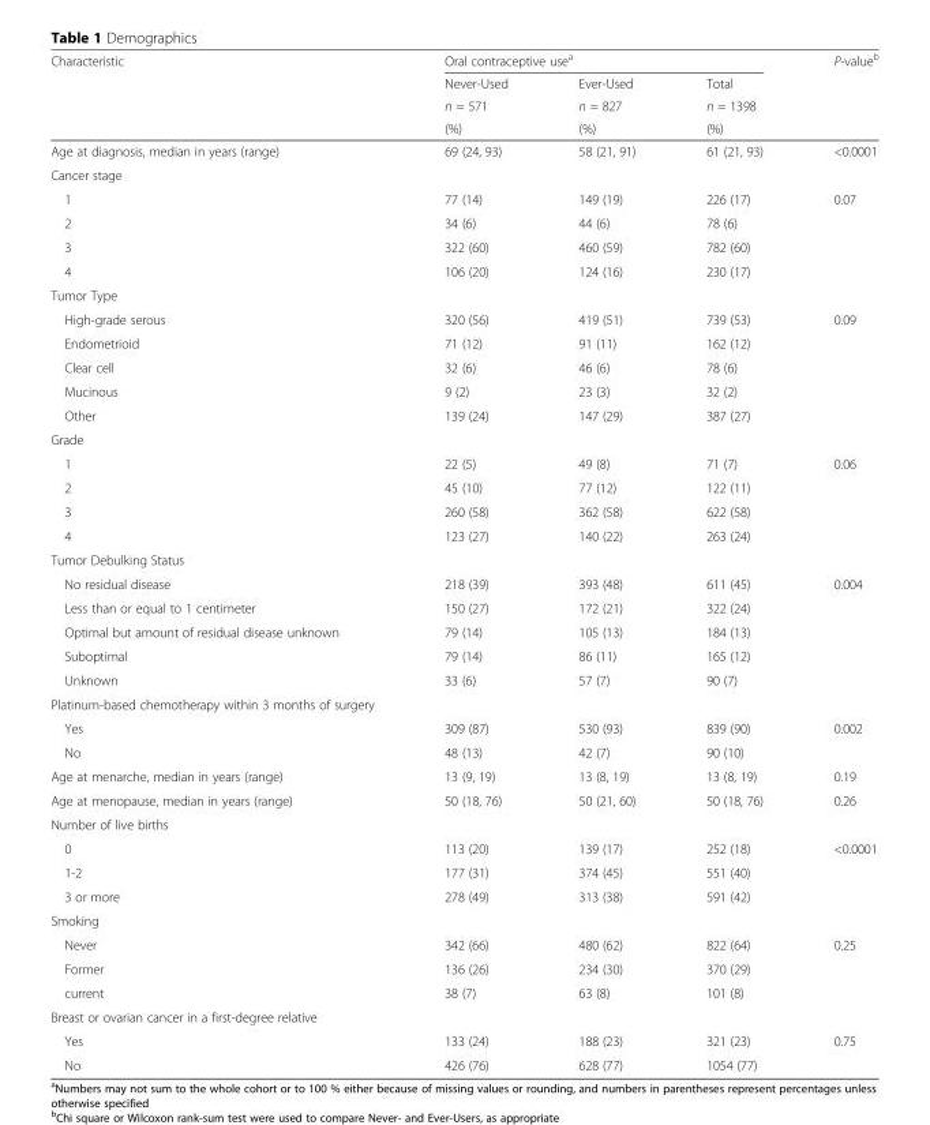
<table><thead><tr><td rowspan="4">Characteristic</td><td colspan="3">Oral contraceptive use<sup>a</sup></td><td rowspan="4">P-value<sup>b</sup></td></tr><tr><td rowspan="3">Never-Used n = 571 (%)</td><td rowspan="3">Ever-Used n = 827 (%)</td><td rowspan="3">Total n = 1398 (%)</td></tr><tr></tr><tr></tr></thead><tbody><tr><td>Age at diagnosis, median in years (range)</td><td>69 (24, 93)</td><td>58 (21, 91)</td><td>61 (21, 93)</td><td>&lt;0.0001</td></tr><tr><td colspan="5">Cancer stage</td></tr><tr><td>1</td><td>77 (14)</td><td>149 (19)</td><td>226 (17)</td><td>0.07</td></tr><tr><td>2</td><td>34 (6)</td><td>44 (6)</td><td>78 (6)</td><td></td></tr><tr><td>3</td><td>322 (60)</td><td>460 (59)</td><td>782 (60)</td><td></td></tr><tr><td>4</td><td>106 (20)</td><td>124 (16)</td><td>230 (17)</td><td></td></tr><tr><td colspan="5">Tumor Type</td></tr><tr><td>High-grade serous</td><td>320 (56)</td><td>419 (51)</td><td>739 (53)</td><td>0.09</td></tr><tr><td>Endometrioid</td><td>71 (12)</td><td>91 (11)</td><td>162 (12)</td><td></td></tr><tr><td>Clear cell</td><td>32 (6)</td><td>46 (6)</td><td>78 (6)</td><td></td></tr><tr><td>Mucinous</td><td>9 (2)</td><td>23 (3)</td><td>32 (2)</td><td></td></tr><tr><td>Other</td><td>139 (24)</td><td>147 (29)</td><td>387 (27)</td><td></td></tr><tr><td colspan="5">Grade</td></tr><tr><td>1</td><td>22 (5)</td><td>49 (8)</td><td>71 (7)</td><td>0.06</td></tr><tr><td>2</td><td>45 (10)</td><td>77 (12)</td><td>122 (11)</td><td></td></tr><tr><td>3</td><td>260 (58)</td><td>362 (58)</td><td>622 (58)</td><td></td></tr><tr><td>4</td><td>123 (27)</td><td>140 (22)</td><td>263 (24)</td><td></td></tr><tr><td colspan="5">Tumor Debulking Status</td></tr><tr><td>No residual disease</td><td>218 (39)</td><td>393 (48)</td><td>611 (45)</td><td>0.004</td></tr><tr><td>Less than or equal to 1 centimeter</td><td>150 (27)</td><td>172 (21)</td><td>322 (24)</td><td></td></tr><tr><td>Optimal but amount of residual disease unknown</td><td>79 (14)</td><td>105 (13)</td><td>184 (13)</td><td></td></tr><tr><td>Suboptimal</td><td>79 (14)</td><td>86 (11)</td><td>165 (12)</td><td></td></tr><tr><td>Unknown</td><td>33 (6)</td><td>57 (7)</td><td>90 (7)</td><td></td></tr><tr><td colspan="5">Platinum-based chemotherapy within 3 months of surgery</td></tr><tr><td>Yes</td><td>309 (87)</td><td>530 (93)</td><td>839 (90)</td><td>0.002</td></tr><tr><td>No</td><td>48 (13)</td><td>42 (7)</td><td>90 (10)</td><td></td></tr><tr><td>Age at menarche, median in years (range)</td><td>13 (9, 19)</td><td>13 (8, 19)</td><td>13 (8, 19)</td><td>0.19</td></tr><tr><td>Age at menopause, median in years (range)</td><td>50 (18, 76)</td><td>50 (21, 60)</td><td>50 (18, 76)</td><td>0.26</td></tr><tr><td colspan="5">Number of live births</td></tr><tr><td>0</td><td>113 (20)</td><td>139 (17)</td><td>252 (18)</td><td>&lt;0.0001</td></tr><tr><td>1-2</td><td>177 (31)</td><td>374 (45)</td><td>551 (40)</td><td></td></tr><tr><td>3 or more</td><td>278 (49)</td><td>313 (38)</td><td>591 (42)</td><td></td></tr><tr><td colspan="5">Smoking</td></tr><tr><td>Never</td><td>342 (66)</td><td>480 (62)</td><td>822 (64)</td><td>0.25</td></tr><tr><td>Former</td><td>136 (26)</td><td>234 (30)</td><td>370 (29)</td><td></td></tr><tr><td>current</td><td>38 (7)</td><td>63 (8)</td><td>101 (8)</td><td></td></tr><tr><td colspan="5">Breast or ovarian cancer in a first-degree relative</td></tr><tr><td>Yes</td><td>133 (24)</td><td>188 (23)</td><td>321 (23)</td><td>0.75</td></tr><tr><td>No</td><td>426 (76)</td><td>628 (77)</td><td>1054 (77)</td><td></td></tr></tbody></table>